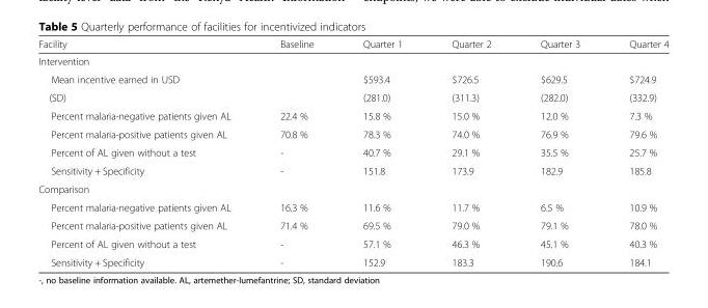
<table><thead><tr><td>Facility</td><td>Baseline</td><td>Quarter 1</td><td>Quarter 2</td><td>Quarter 3</td><td>Quarter 4</td></tr></thead><tbody><tr><td colspan="6">Intervention</td></tr><tr><td>Mean incentive earned in USD</td><td></td><td>$593.4</td><td>$726.5</td><td>$629.5</td><td>$724.9</td></tr><tr><td>(SD)</td><td></td><td>(281.0)</td><td>(311.3)</td><td>(282.0)</td><td>(332.9)</td></tr><tr><td>Percent malaria-negative patients given AL</td><td>22.4 %</td><td>15.8 %</td><td>15.0 %</td><td>12.0 %</td><td>7.3 %</td></tr><tr><td>Percent malaria-positive patients given AL</td><td>70.8 %</td><td>78.3 %</td><td>74.0 %</td><td>76.9 %</td><td>79.6 %</td></tr><tr><td>Percent of AL given without a test</td><td>-</td><td>40.7 %</td><td>29.1 %</td><td>35.5 %</td><td>25.7 %</td></tr><tr><td>Sensitivity + Specificity</td><td>-</td><td>151.8</td><td>173.9</td><td>182.9</td><td>185.8</td></tr><tr><td colspan="6">Comparison</td></tr><tr><td>Percent malaria-negative patients given AL</td><td>16.3 %</td><td>11.6 %</td><td>11.7 %</td><td>6.5 %</td><td>10.9 %</td></tr><tr><td>Percent malaria-positive patients given AL</td><td>71.4 %</td><td>69.5 %</td><td>79.0 %</td><td>79.1 %</td><td>78.0 %</td></tr><tr><td>Percent of AL given without a test</td><td>-</td><td>57.1 %</td><td>46.3 %</td><td>45.1 %</td><td>40.3 %</td></tr><tr><td>Sensitivity + Specificity</td><td>-</td><td>152.9</td><td>183.3</td><td>190.6</td><td>184.1</td></tr></tbody></table>